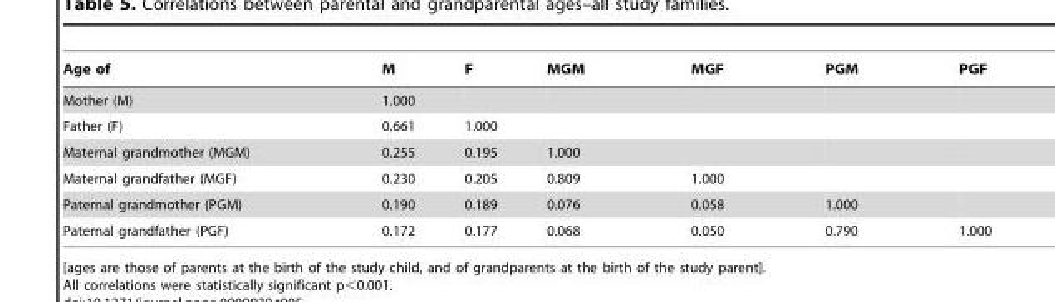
<table><thead><tr><td>Age of</td><td>M</td><td>F</td><td>MGM</td><td>MGF</td><td>PGM</td><td>PGF</td></tr></thead><tbody><tr><td>Mother (M)</td><td>1.000</td><td></td><td></td><td></td><td></td><td></td></tr><tr><td>Father (F)</td><td>0.661</td><td>1.000</td><td></td><td></td><td></td><td></td></tr><tr><td>Maternal grandmother (MGM)</td><td>0.255</td><td>0.195</td><td>1.000</td><td></td><td></td><td></td></tr><tr><td>Maternal grandfather (MGF)</td><td>0.230</td><td>0.205</td><td>0.809</td><td>1.000</td><td></td><td></td></tr><tr><td>Paternal grandmother (PGM)</td><td>0.190</td><td>0.189</td><td>0.076</td><td>0.058</td><td>1.000</td><td></td></tr><tr><td>Paternal grandfather (PGF)</td><td>0.172</td><td>0.177</td><td>0.068</td><td>0.050</td><td>0.790</td><td>1.000</td></tr></tbody></table>